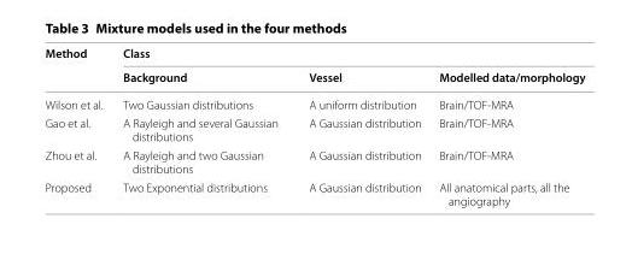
<table><thead><tr><td rowspan="2">Method</td><td colspan="3">Class</td></tr><tr><td>Background</td><td>Vessel</td><td>Modelled data/morphology</td></tr></thead><tbody><tr><td>Wilson et al.</td><td>Two Gaussian distributions</td><td>A uniform distribution</td><td>Brain/TOF-MRA</td></tr><tr><td>Gao et al.</td><td>A Rayleigh and several Gaussian distributions</td><td>A Gaussian distribution</td><td>Brain/TOF-MRA</td></tr><tr><td>Zhou et al.</td><td>A Rayleigh and two Gaussian distributions</td><td>A Gaussian distribution</td><td>Brain/TOF-MRA</td></tr><tr><td>Proposed</td><td>Two Exponential distributions</td><td>A Gaussian distribution</td><td>All anatomical parts, all the angiography</td></tr></tbody></table>